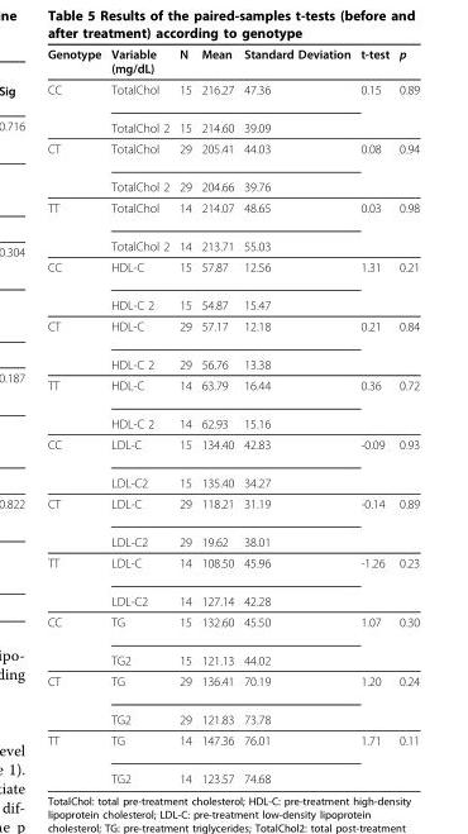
<table><thead><tr><td>Genotype</td><td>Variable (mg/dL)</td><td>N</td><td>Mean</td><td>Standard Deviation</td><td>t-test</td><td>p</td></tr></thead><tbody><tr><td rowspan="2">CC</td><td>TotalChol</td><td>15</td><td>216.27</td><td>47.36</td><td>0.15</td><td>0.89</td></tr><tr><td>TotalChol 2</td><td>15</td><td>214.60</td><td>39.09</td><td></td><td></td></tr><tr><td rowspan="2">CT</td><td>TotalChol</td><td>29</td><td>205.41</td><td>44.03</td><td>0.08</td><td>0.94</td></tr><tr><td>TotalChol 2</td><td>29</td><td>204.66</td><td>39.76</td><td></td><td></td></tr><tr><td rowspan="2">TT</td><td>TotalChol</td><td>14</td><td>214.07</td><td>48.65</td><td>0.03</td><td>0.98</td></tr><tr><td>TotalChol 2</td><td>14</td><td>213.71</td><td>55.03</td><td></td><td></td></tr><tr><td rowspan="2">CC</td><td>HDL-C</td><td>15</td><td>57.87</td><td>12.56</td><td>1.31</td><td>0.21</td></tr><tr><td>HDL-C 2</td><td>15</td><td>54.87</td><td>15.47</td><td></td><td></td></tr><tr><td rowspan="2">CT</td><td>HDL-C</td><td>29</td><td>57.17</td><td>12.18</td><td>0.21</td><td>0.84</td></tr><tr><td>HDL-C 2</td><td>29</td><td>56.76</td><td>13.38</td><td></td><td></td></tr><tr><td rowspan="2">TT</td><td>HDL-C</td><td>14</td><td>63.79</td><td>16.44</td><td>0.36</td><td>0.72</td></tr><tr><td>HDL-C 2</td><td>14</td><td>62.93</td><td>15.16</td><td></td><td></td></tr><tr><td rowspan="2">CC</td><td>LDL-C</td><td>15</td><td>134.40</td><td>42.83</td><td>-0.09</td><td>0.93</td></tr><tr><td>LDL-C2</td><td>15</td><td>135.40</td><td>34.27</td><td></td><td></td></tr><tr><td rowspan="2">CT</td><td>LDL-C</td><td>29</td><td>118.21</td><td>31.19</td><td>-0.14</td><td>0.89</td></tr><tr><td>LDL-C2</td><td>29</td><td>19.62</td><td>38.01</td><td></td><td></td></tr><tr><td rowspan="2">TT</td><td>LDL-C</td><td>14</td><td>108.50</td><td>45.96</td><td>-1.26</td><td>0.23</td></tr><tr><td>LDL-C2</td><td>14</td><td>127.14</td><td>42.28</td><td></td><td></td></tr><tr><td rowspan="2">CC</td><td>TG</td><td>15</td><td>132.60</td><td>45.50</td><td>1.07</td><td>0.30</td></tr><tr><td>TG2</td><td>15</td><td>121.13</td><td>44.02</td><td></td><td></td></tr><tr><td rowspan="2">CT</td><td>TG</td><td>29</td><td>136.41</td><td>70.19</td><td>1.20</td><td>0.24</td></tr><tr><td>TG2</td><td>29</td><td>121.83</td><td>73.78</td><td></td><td></td></tr><tr><td rowspan="2">TT</td><td>TG</td><td>14</td><td>147.36</td><td>76.01</td><td>1.71</td><td>0.11</td></tr><tr><td>TG2</td><td>14</td><td>123.57</td><td>74.68</td><td></td><td></td></tr></tbody></table>